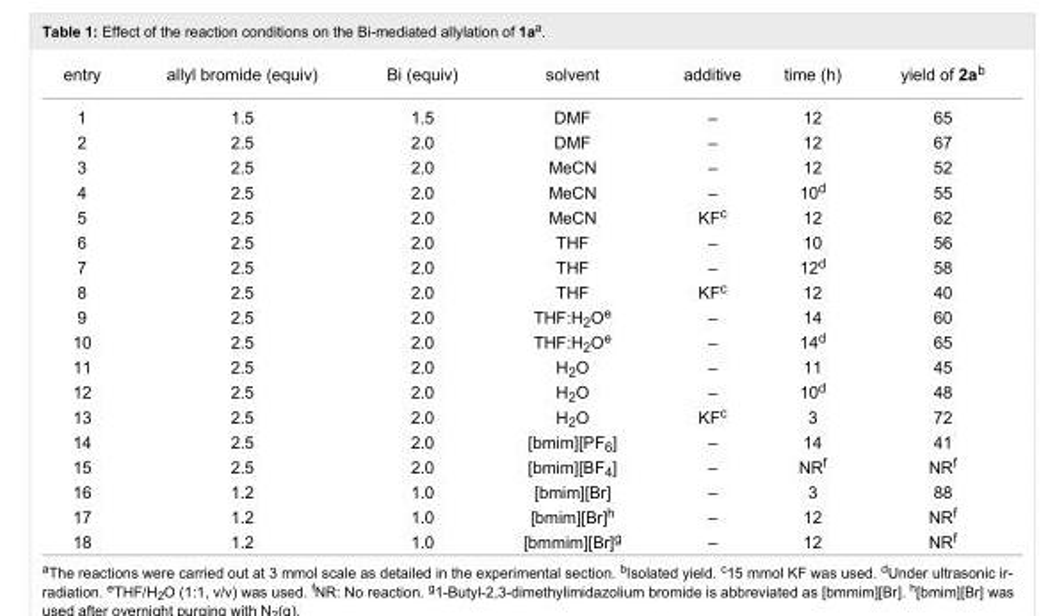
<table><tbody><tr><td>entry</td><td>allyl bromide (equiv)</td><td>Bi (equiv)</td><td>solvent</td><td>additive</td><td>time (h)</td><td>yield of 2a<sup>b</sup></td></tr><tr><td>1</td><td>1.5</td><td>1.5</td><td>DMF</td><td>–</td><td>12</td><td>65</td></tr><tr><td>2</td><td>2.5</td><td>2.0</td><td>DMF</td><td>–</td><td>12</td><td>67</td></tr><tr><td>3</td><td>2.5</td><td>2.0</td><td>MeCN</td><td>–</td><td>12</td><td>52</td></tr><tr><td>4</td><td>2.5</td><td>2.0</td><td>MeCN</td><td>–</td><td>10<sup>d</sup></td><td>55</td></tr><tr><td>5</td><td>2.5</td><td>2.0</td><td>MeCN</td><td>KF<sup>c</sup></td><td>12</td><td>62</td></tr><tr><td>6</td><td>2.5</td><td>2.0</td><td>THF</td><td>–</td><td>10</td><td>56</td></tr><tr><td>7</td><td>2.5</td><td>2.0</td><td>THF</td><td>–</td><td>12<sup>d</sup></td><td>58</td></tr><tr><td>8</td><td>2.5</td><td>2.0</td><td>THF</td><td>KF<sup>c</sup></td><td>12</td><td>40</td></tr><tr><td>9</td><td>2.5</td><td>2.0</td><td>THF:H<sub>2</sub>O<sup>e</sup></td><td>–</td><td>14</td><td>60</td></tr><tr><td>10</td><td>2.5</td><td>2.0</td><td>THF:H<sub>2</sub>O<sup>e</sup></td><td>–</td><td>14<sup>d</sup></td><td>65</td></tr><tr><td>11</td><td>2.5</td><td>2.0</td><td>H<sub>2</sub>O</td><td>–</td><td>11</td><td>45</td></tr><tr><td>12</td><td>2.5</td><td>2.0</td><td>H<sub>2</sub>O</td><td>–</td><td>10<sup>d</sup></td><td>48</td></tr><tr><td>13</td><td>2.5</td><td>2.0</td><td>H<sub>2</sub>O</td><td>KF<sup>c</sup></td><td>3</td><td>72</td></tr><tr><td>14</td><td>2.5</td><td>2.0</td><td>[bmim][PF<sub>6</sub>]</td><td>–</td><td>14</td><td>41</td></tr><tr><td>15</td><td>2.5</td><td>2.0</td><td>[bmim][BF<sub>4</sub>]</td><td>–</td><td>NR<sup>f</sup></td><td>NR<sup>f</sup></td></tr><tr><td>16</td><td>1.2</td><td>1.0</td><td>[bmim][Br]</td><td>–</td><td>3</td><td>88</td></tr><tr><td>17</td><td>1.2</td><td>1.0</td><td>[bmim][Br]<sup>h</sup></td><td>–</td><td>12</td><td>NR<sup>f</sup></td></tr><tr><td>18</td><td>1.2</td><td>1.0</td><td>[bmmim][Br]<sup>g</sup></td><td>–</td><td>12</td><td>NR<sup>f</sup></td></tr></tbody></table>